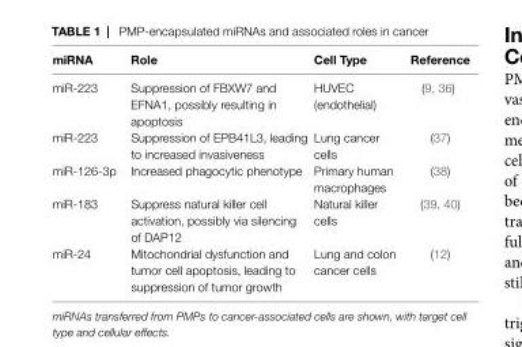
<table><thead><tr><td>miRnA</td><td>Role</td><td>Cell Type</td><td>Reference</td></tr></thead><tbody><tr><td>miR-223</td><td>Suppression of FBXW7 and EFNA1, possibly resulting in apoptosis</td><td>HUVEC (endothelial)</td><td>(9, 36)</td></tr><tr><td>miR-223</td><td>Suppression of EPB41L3, leading to increased invasiveness</td><td>Lung cancer cells</td><td>(37)</td></tr><tr><td>miR-126-3p</td><td>Increased phagocytic phenotype</td><td>Primary human macrophages</td><td>(38)</td></tr><tr><td>miR-183</td><td>Suppress natural killer cell activation, possibly via silencing of DAP12</td><td>Natural killer cells</td><td>(39, 40)</td></tr><tr><td>miR-24</td><td>Mitochondrial dysfunction and tumor cell apoptosis, leading to suppression of tumor growth</td><td>Lung and colon cancer cells</td><td>(12)</td></tr></tbody></table>